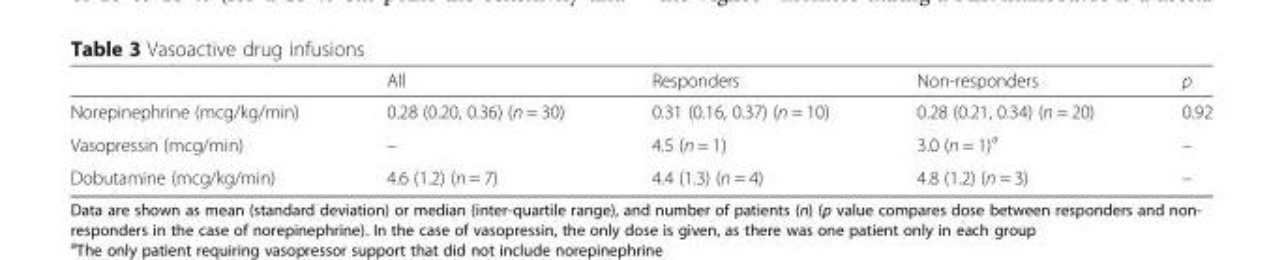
<table><thead><tr><td></td><td>All</td><td>Responders</td><td>Non-responders</td><td>p</td></tr></thead><tbody><tr><td>Norepinephrine (mcg/kg/min)</td><td>0.28 (0.20, 0.36) (n = 30)</td><td>0.31 (0.16, 0.37) (n = 10)</td><td>0.28 (0.21, 0.34) (n = 20)</td><td>0.92</td></tr><tr><td>Vasopressin (mcg/min)</td><td>–</td><td>4.5 (n = 1)</td><td>3.0 (n = 1)<sup>a</sup></td><td>–</td></tr><tr><td>Dobutamine (mcg/kg/min)</td><td>4.6 (1.2) (n = 7)</td><td>4.4 (1.3) (n = 4)</td><td>4.8 (1.2) (n = 3)</td><td>–</td></tr></tbody></table>